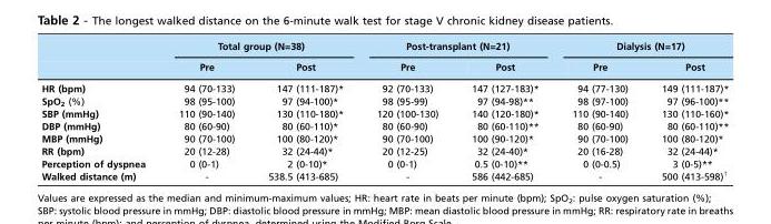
<table><thead><tr><td rowspan="2"></td><td colspan="2">Total group (N=38)</td><td colspan="2">Post-transplant (N=21)</td><td colspan="2">Dialysis (N=17)</td></tr><tr><td>Pre</td><td>Post</td><td>Pre</td><td>Post</td><td>Pre</td><td>Post</td></tr></thead><tbody><tr><td>HR (bpm)</td><td>94 (70-133)</td><td>147 (111-187)*</td><td>92 (70-133)</td><td>147 (127-183)*</td><td>94 (77-130)</td><td>149 (111-187)*</td></tr><tr><td>SpO<sub>2</sub> (%)</td><td>98 (95-100)</td><td>97 (94-100)*</td><td>98 (95-99)</td><td>97 (94-98)**</td><td>98 (97-100)</td><td>97 (96-100)**</td></tr><tr><td>SBP (mmHg)</td><td>110 (90-140)</td><td>130 (110-180)*</td><td>120 (100-130)</td><td>140 (120-180)*</td><td>110 (90-140)</td><td>130 (110-160)*</td></tr><tr><td>DBP (mmHg)</td><td>80 (60-90)</td><td>80 (60-110)*</td><td>80 (60-90)</td><td>80 (60-110)**</td><td>80 (60-90)</td><td>80 (60-110)**</td></tr><tr><td>MBP (mmHg)</td><td>90 (70-100)</td><td>100 (80-120)*</td><td>90 (70-100)</td><td>100 (90-120)*</td><td>90 (70-100)</td><td>100 (80-120)*</td></tr><tr><td>RR (bpm)</td><td>20 (12-28)</td><td>32 (24-44)*</td><td>20 (12-25)</td><td>32 (24-40)*</td><td>20 (16-28)</td><td>32 (24-44)*</td></tr><tr><td>Perception of dyspnea</td><td>0 (0-1)</td><td>2 (0-10)*</td><td>0 (0-1)</td><td>0.5 (0-10)**</td><td>0 (0-0.5)</td><td>3 (0-5)**</td></tr><tr><td>Walked distance (m)</td><td>-</td><td>538.5 (413-685)</td><td>-</td><td>586 (442-685)</td><td>-</td><td>500 (413-598)†</td></tr></tbody></table>